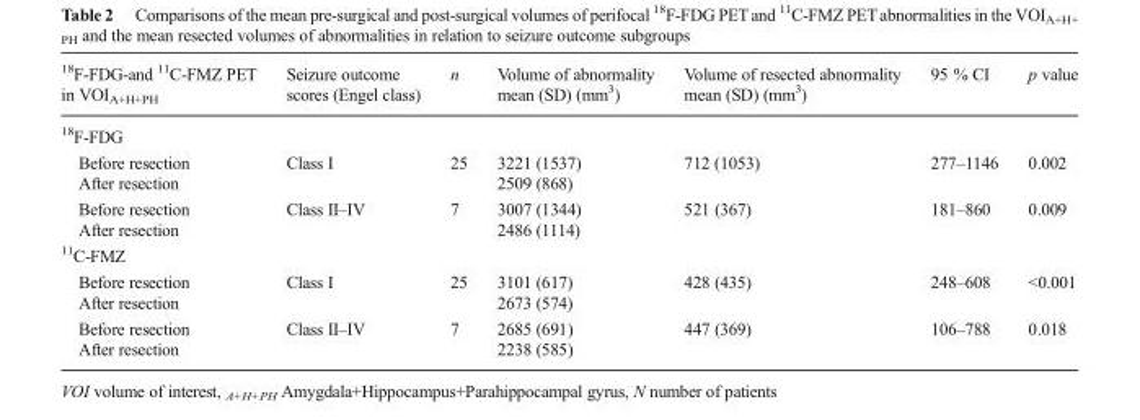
<table><thead><tr><td><sup>18</sup>F-FDG-and <sup>11</sup>C-FMZ PET in VOI<sub>A+H+PH</sub></td><td>Seizure outcome scores (Engel class)</td><td>n</td><td>Volume of abnormality mean (SD) (mm<sup>3</sup>)</td><td>Volume of resected abnormality mean (SD) (mm<sup>3</sup>)</td><td>95 % CI</td><td>p value</td></tr></thead><tbody><tr><td colspan="7"><sup>18</sup>F-FDG</td></tr><tr><td>Before resection</td><td rowspan="2">Class I</td><td rowspan="2">25</td><td>3221 (1537)</td><td rowspan="2">712 (1053)</td><td rowspan="2">277–1146</td><td rowspan="2">0.002</td></tr><tr><td>After resection</td><td>2509 (868)</td></tr><tr><td>Before resection</td><td rowspan="2">Class II–IV</td><td rowspan="2">7</td><td>3007 (1344)</td><td rowspan="2">521 (367)</td><td rowspan="2">181–860</td><td rowspan="2">0.009</td></tr><tr><td>After resection</td><td>2486 (1114)</td></tr><tr><td colspan="7"><sup>11</sup>C-FMZ</td></tr><tr><td>Before resection</td><td rowspan="2">Class I</td><td rowspan="2">25</td><td>3101 (617)</td><td rowspan="2">428 (435)</td><td rowspan="2">248–608</td><td rowspan="2">&lt;0.001</td></tr><tr><td>After resection</td><td>2673 (574)</td></tr><tr><td>Before resection</td><td rowspan="2">Class II–IV</td><td rowspan="2">7</td><td>2685 (691)</td><td rowspan="2">447 (369)</td><td rowspan="2">106–788</td><td rowspan="2">0.018</td></tr><tr><td>After resection</td><td>2238 (585)</td></tr></tbody></table>